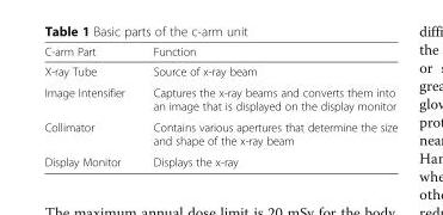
<table><thead><tr><td>C-arm Part</td><td>Function</td></tr></thead><tbody><tr><td>X-ray Tube</td><td>Source of x-ray beam</td></tr><tr><td>Image Intensifier</td><td>Captures the x-ray beams and converts them into an image that is displayed on the display monitor</td></tr><tr><td>Collimator</td><td>Contains various apertures that determine the size and shape of the x-ray beam</td></tr><tr><td>Display Monitor</td><td>Displays the x-ray</td></tr></tbody></table>